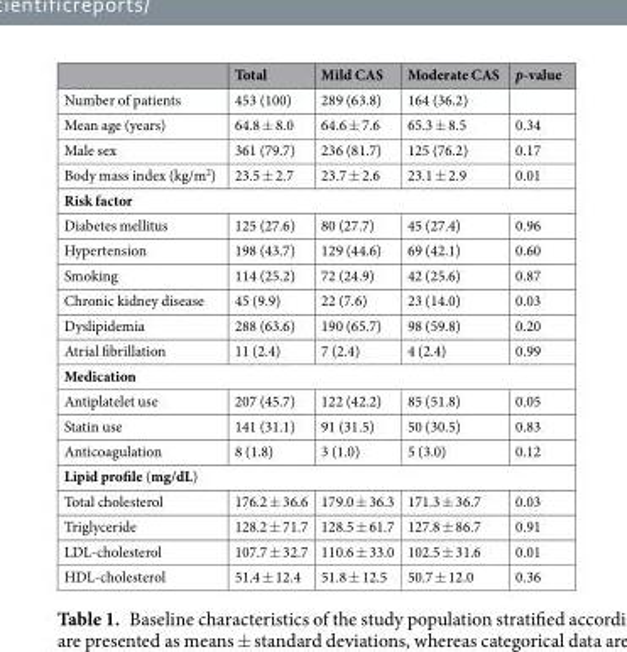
<table><thead><tr><td></td><td>Total</td><td>Mild CAS</td><td>Moderate CAS</td><td>p-value</td></tr></thead><tbody><tr><td>Number of patients</td><td>453 (100)</td><td>289 (63.8)</td><td>164 (36.2)</td><td></td></tr><tr><td>Mean age (years)</td><td>64.8 ± 8.0</td><td>64.6 ± 7.6</td><td>65.3 ± 8.5</td><td>0.34</td></tr><tr><td>Male sex</td><td>361 (79.7)</td><td>236 (81.7)</td><td>125 (76.2)</td><td>0.17</td></tr><tr><td>Body mass index (kg/m<sup>2</sup>)</td><td>23.5 ± 2.7</td><td>23.7 ± 2.6</td><td>23.1 ± 2.9</td><td>0.01</td></tr><tr><td colspan="5">Risk factor</td></tr><tr><td>Diabetes mellitus</td><td>125 (27.6)</td><td>80 (27.7)</td><td>45 (27.4)</td><td>0.96</td></tr><tr><td>Hypertension</td><td>198 (43.7)</td><td>129 (44.6)</td><td>69 (42.1)</td><td>0.60</td></tr><tr><td>Smoking</td><td>114 (25.2)</td><td>72 (24.9)</td><td>42 (25.6)</td><td>0.87</td></tr><tr><td>Chronic kidney disease</td><td>45 (9.9)</td><td>22 (7.6)</td><td>23 (14.0)</td><td>0.03</td></tr><tr><td>Dyslipidemia</td><td>288 (63.6)</td><td>190 (65.7)</td><td>98 (59.8)</td><td>0.20</td></tr><tr><td>Atrial fibrillation</td><td>11 (2.4)</td><td>7 (2.4)</td><td>4 (2.4)</td><td>0.99</td></tr><tr><td colspan="5">Medication</td></tr><tr><td>Antiplatelet use</td><td>207 (45.7)</td><td>122 (42.2)</td><td>85 (51.8)</td><td>0.05</td></tr><tr><td>Statin use</td><td>141 (31.1)</td><td>91 (31.5)</td><td>50 (30.5)</td><td>0.83</td></tr><tr><td>Anticoagulation</td><td>8 (1.8)</td><td>3 (1.0)</td><td>5 (3.0)</td><td>0.12</td></tr><tr><td colspan="5">Lipid profile (mg/dL)</td></tr><tr><td>Total cholesterol</td><td>176.2 ± 36.6</td><td>179.0 ± 36.3</td><td>171.3 ± 36.7</td><td>0.03</td></tr><tr><td>Triglyceride</td><td>128.2 ± 71.7</td><td>128.5 ± 61.7</td><td>127.8 ± 86.7</td><td>0.91</td></tr><tr><td>LDL-cholesterol</td><td>107.7 ± 32.7</td><td>110.6 ± 33.0</td><td>102.5 ± 31.6</td><td>0.01</td></tr><tr><td>HDL-cholesterol</td><td>51.4 ± 12.4</td><td>51.8 ± 12.5</td><td>50.7 ± 12.0</td><td>0.36</td></tr></tbody></table>